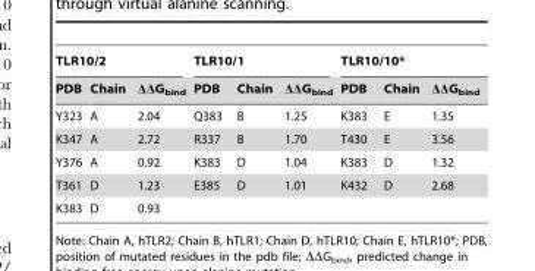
<table><thead><tr><td colspan="3">TLR10/2</td><td colspan="3">TLR10/1</td><td colspan="3">TLR10/10*</td></tr><tr><td>PDB</td><td>Chain</td><td>ΔΔG<sub>bind</sub></td><td>PDB</td><td>Chain</td><td>ΔΔG<sub>bind</sub></td><td>PDB</td><td>Chain</td><td>ΔΔG<sub>bind</sub></td></tr></thead><tbody><tr><td>Y323</td><td>A</td><td>2.04</td><td>Q383</td><td>B</td><td>1.25</td><td>K383</td><td>E</td><td>1.35</td></tr><tr><td>K347</td><td>A</td><td>2.72</td><td>R337</td><td>B</td><td>1.70</td><td>T430</td><td>E</td><td>3.56</td></tr><tr><td>Y376</td><td>A</td><td>0.92</td><td>K383</td><td>D</td><td>1.04</td><td>K383</td><td>D</td><td>1.32</td></tr><tr><td>T361</td><td>D</td><td>1.23</td><td>E385</td><td>D</td><td>1.01</td><td>K432</td><td>D</td><td>2.68</td></tr><tr><td>K383</td><td>D</td><td>0.93</td><td></td><td></td><td></td><td></td><td></td><td></td></tr></tbody></table>